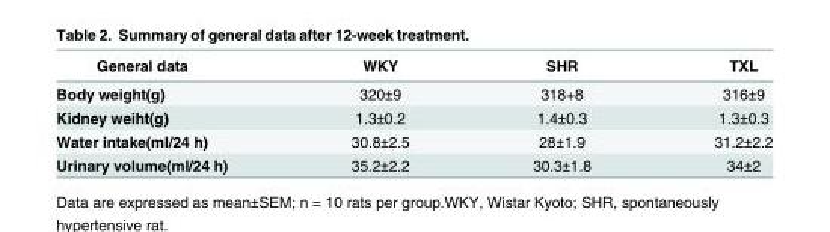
<table><thead><tr><td>General data</td><td>WKY</td><td>SHR</td><td>TXL</td></tr></thead><tbody><tr><td>Body weight(g)</td><td>320±9</td><td>318+8</td><td>316±9</td></tr><tr><td>Kidney weiht(g)</td><td>1.3±0.2</td><td>1.4±0.3</td><td>1.3±0.3</td></tr><tr><td>Water intake(ml/24 h)</td><td>30.8±2.5</td><td>28±1.9</td><td>31.2±2.2</td></tr><tr><td>Urinary volume(ml/24 h)</td><td>35.2±2.2</td><td>30.3±1.8</td><td>34±2</td></tr></tbody></table>